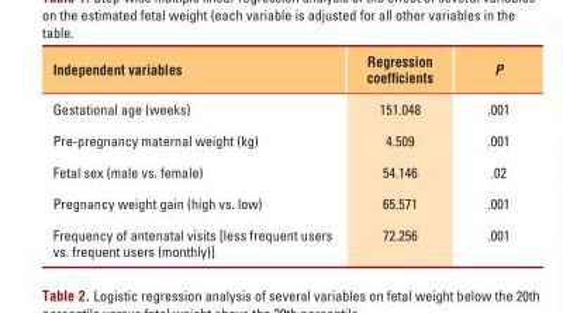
<table><thead><tr><td>Independent variables</td><td>Regression coefficients</td><td>P</td></tr></thead><tbody><tr><td>Gestational age (weeks)</td><td>151.048</td><td>.001</td></tr><tr><td>Pre-pregnancy maternal weight (kg)</td><td>4.509</td><td>.001</td></tr><tr><td>Fetal sex (male vs. female)</td><td>54.146</td><td>.02</td></tr><tr><td>Pregnancy weight gain (high vs. low)</td><td>65.571</td><td>.001</td></tr><tr><td>Frequency of antenatal visits [less frequent users vs. frequent users (monthly)]</td><td>72.256</td><td>.001</td></tr></tbody></table>